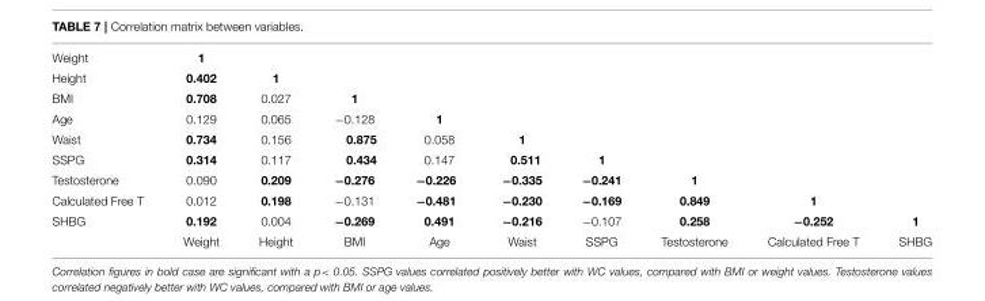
<table><tbody><tr><td>Weight</td><td>1</td><td></td><td></td><td></td><td></td><td></td><td></td><td></td><td></td></tr><tr><td>Height</td><td>0.402</td><td>1</td><td></td><td></td><td></td><td></td><td></td><td></td><td></td></tr><tr><td>BMI</td><td>0.708</td><td>0.027</td><td>1</td><td></td><td></td><td></td><td></td><td></td><td></td></tr><tr><td>Age</td><td>0.129</td><td>0.065</td><td>−0.128</td><td>1</td><td></td><td></td><td></td><td></td><td></td></tr><tr><td>Waist</td><td>0.734</td><td>0.156</td><td>0.875</td><td>0.058</td><td>1</td><td></td><td></td><td></td><td></td></tr><tr><td>SSPG</td><td>0.314</td><td>0.117</td><td>0.434</td><td>0.147</td><td>0.511</td><td>1</td><td></td><td></td><td></td></tr><tr><td>Testosterone</td><td>0.090</td><td>0.209</td><td>−0.276</td><td>−0.226</td><td>−0.335</td><td>−0.241</td><td>1</td><td></td><td></td></tr><tr><td>Calculated Free T</td><td>0.012</td><td>0.198</td><td>−0.131</td><td>−0.481</td><td>−0.230</td><td>−0.169</td><td>0.849</td><td>1</td><td></td></tr><tr><td rowspan="2">SHBG</td><td>0.192</td><td>0.004</td><td>−0.269</td><td>0.491</td><td>−0.216</td><td>−0.107</td><td>0.258</td><td>−0.252</td><td>1</td></tr><tr><td>Weight</td><td>Height</td><td>BMI</td><td>Age</td><td>Waist</td><td>SSPG</td><td>Testosterone</td><td>Calculated Free T</td><td>SHBG</td></tr></tbody></table>